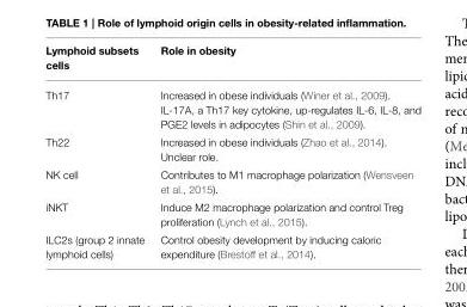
<table><thead><tr><td>Lymphoid subsets cells</td><td>Role in obesity</td></tr></thead><tbody><tr><td>Th17</td><td>Increased in obese individuals (Winer et al., 2009). IL-17A, a Th17 key cytokine, up-regulates IL-6, IL-8, and PGE2 levels in adipocytes (Shin et al., 2009).</td></tr><tr><td>Th22</td><td>Increased in obese individuals (Zhao et al., 2014). Unclear role.</td></tr><tr><td>NK cell</td><td>Contributes to M1 macrophage polarization (Wensveen et al., 2015).</td></tr><tr><td>iNKT</td><td>Induce M2 macrophage polarization and control Treg proliferation (Lynch et al., 2015).</td></tr><tr><td>ILC2s (group 2 innate lymphoid cells)</td><td>Control obesity development by inducing caloric expenditure (Brestoff et al., 2014).</td></tr></tbody></table>